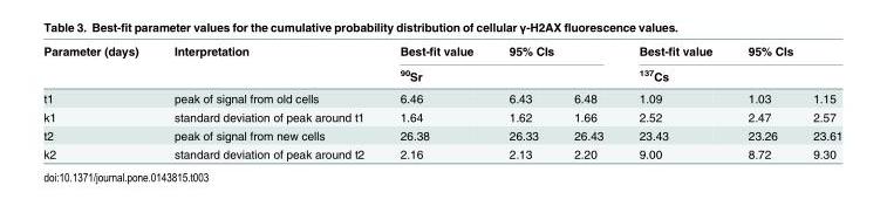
<table><thead><tr><td rowspan="3">Parameter (days) t1</td><td rowspan="3">Interpretation peak of signal from old cells</td><td>Best-fit value</td><td colspan="2">95% CIs</td><td>Best-fit value</td><td colspan="2">95% CIs</td></tr><tr><td colspan="3"><sup>90</sup>Sr</td><td colspan="3"><sup>137</sup>Cs</td></tr><tr><td>6.46</td><td>6.43</td><td>6.48</td><td>1.09</td><td>1.03</td><td>1.15</td></tr></thead><tbody><tr><td>k1</td><td>standard deviation of peak around t1</td><td>1.64</td><td>1.62</td><td>1.66</td><td>2.52</td><td>2.47</td><td>2.57</td></tr><tr><td>t2</td><td>peak of signal from new cells</td><td>26.38</td><td>26.33</td><td>26.43</td><td>23.43</td><td>23.26</td><td>23.61</td></tr><tr><td>k2</td><td>standard deviation of peak around t2</td><td>2.16</td><td>2.13</td><td>2.20</td><td>9.00</td><td>8.72</td><td>9.30</td></tr></tbody></table>